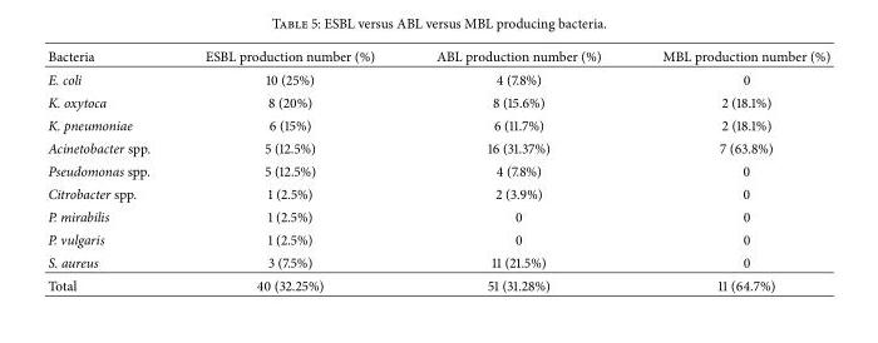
<table><thead><tr><td>Bacteria</td><td>ESBL production number (%)</td><td>ABL production number (%)</td><td>MBL production number (%)</td></tr></thead><tbody><tr><td>E. coli</td><td>10 (25%)</td><td>4 (7.8%)</td><td>0</td></tr><tr><td>K. oxytoca</td><td>8 (20%)</td><td>8 (15.6%)</td><td>2 (18.1%)</td></tr><tr><td>K. pneumoniae</td><td>6 (15%)</td><td>6 (11.7%)</td><td>2 (18.1%)</td></tr><tr><td>Acinetobacter spp.</td><td>5 (12.5%)</td><td>16 (31.37%)</td><td>7 (63.8%)</td></tr><tr><td>Pseudomonas spp.</td><td>5 (12.5%)</td><td>4 (7.8%)</td><td>0</td></tr><tr><td>Citrobacter spp.</td><td>1 (2.5%)</td><td>2 (3.9%)</td><td>0</td></tr><tr><td>P. mirabilis</td><td>1 (2.5%)</td><td>0</td><td>0</td></tr><tr><td>P. vulgaris</td><td>1 (2.5%)</td><td>0</td><td>0</td></tr><tr><td>S. aureus</td><td>3 (7.5%)</td><td>11 (21.5%)</td><td>0</td></tr><tr><td>Total</td><td>40 (32.25%)</td><td>51 (31.28%)</td><td>11 (64.7%)</td></tr></tbody></table>